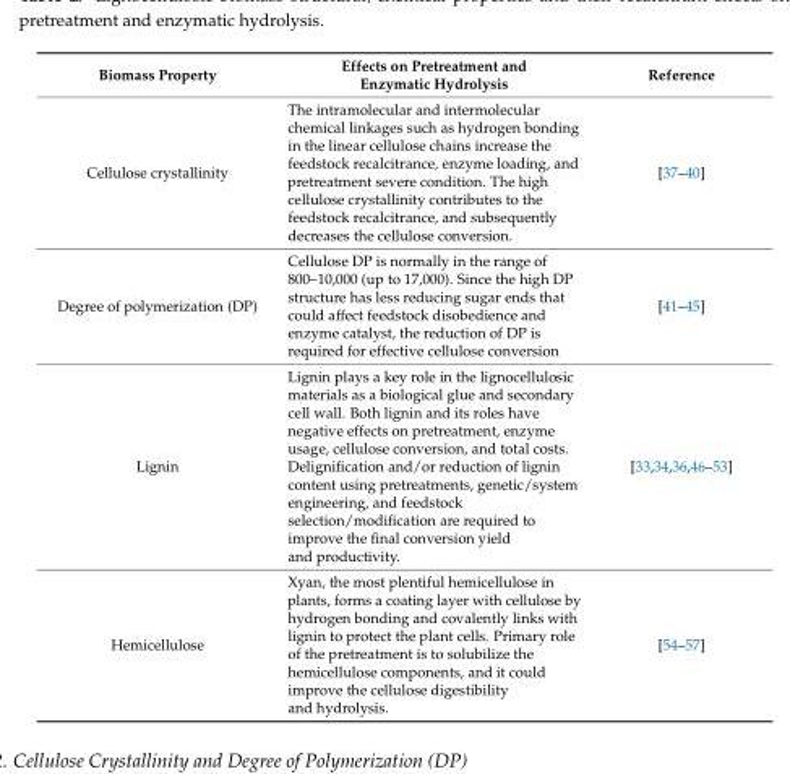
<table><thead><tr><td>Biomass Property</td><td>Effects on Pretreatment and Enzymatic Hydrolysis</td><td>Reference</td></tr></thead><tbody><tr><td>Cellulose crystallinity</td><td>The intramolecular and intermolecular chemical linkages such as hydrogen bonding in the linear cellulose chains increase the feedstock recalcitrance, enzyme loading, and pretreatment severe condition. The high cellulose crystallinity contributes to the feedstock recalcitrance, and subsequently decreases the cellulose conversion.</td><td>[37–40]</td></tr><tr><td>Degree of polymerization (DP)</td><td>Cellulose DP is normally in the range of 800–10,000 (up to 17,000). Since the high DP structure has less reducing sugar ends that could affect feedstock disobedience and enzyme catalyst, the reduction of DP is required for effective cellulose conversion</td><td>[41–45]</td></tr><tr><td>Lignin</td><td>Lignin plays a key role in the lignocellulosic materials as a biological glue and secondary cell wall. Both lignin and its roles have negative effects on pretreatment, enzyme usage, cellulose conversion, and total costs. Delignification and/or reduction of lignin content using pretreatments, genetic/system engineering, and feedstock selection/modification are required to improve the final conversion yield and productivity.</td><td>[33,34,36,46–53]</td></tr><tr><td>Hemicellulose</td><td>Xyan, the most plentiful hemicellulose in plants, forms a coating layer with cellulose by hydrogen bonding and covalently links with lignin to protect the plant cells. Primary role of the pretreatment is to solubilize the hemicellulose components, and it could improve the cellulose digestibility and hydrolysis.</td><td>[54–57]</td></tr></tbody></table>